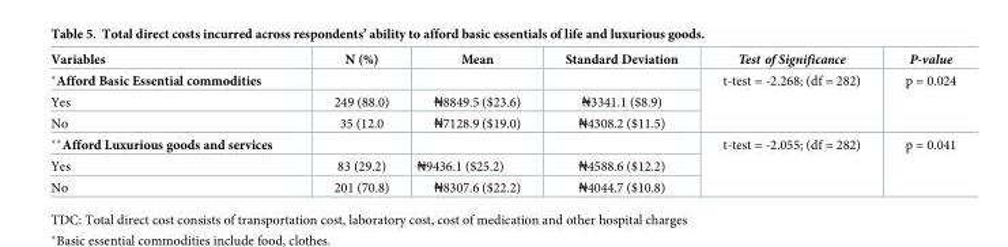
<table><thead><tr><td>Variables</td><td>N (%)</td><td>Mean</td><td>Standard Deviation</td><td>Test of Significance</td><td>P-value</td></tr></thead><tbody><tr><td colspan="4">*Afford Basic Essential commodities</td><td rowspan="3">t-test = -2.268; (df = 282)</td><td rowspan="3">p = 0.024</td></tr><tr><td>Yes</td><td>249 (88.0)</td><td>₦8849.5 ($23.6)</td><td>₦3341.1 ($8.9)</td></tr><tr><td>No</td><td>35 (12.0</td><td>₦7128.9 ($19.0)</td><td>₦4308.2 ($11.5)</td></tr><tr><td colspan="4">**Afford Luxurious goods and services</td><td rowspan="3">t-test = -2.055; (df = 282)</td><td rowspan="3">p = 0.041</td></tr><tr><td>Yes</td><td>83 (29.2)</td><td>₦9436.1 ($25.2)</td><td>₦4588.6 ($12.2)</td></tr><tr><td>No</td><td>201 (70.8)</td><td>₦8307.6 ($22.2)</td><td>₦4044.7 ($10.8)</td></tr></tbody></table>